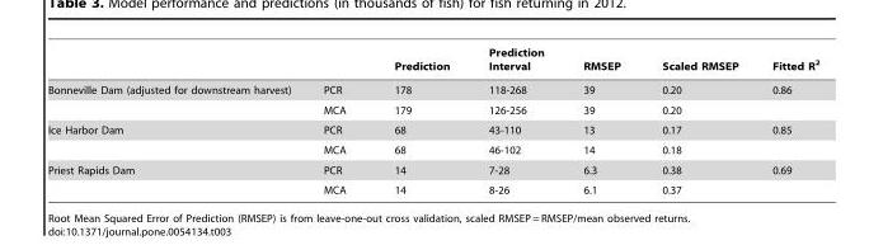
<table><thead><tr><td></td><td></td><td>Prediction</td><td>Prediction Interval</td><td>RMSEP</td><td>Scaled RMSEP</td><td>Fitted R<sup>2</sup></td></tr></thead><tbody><tr><td rowspan="2">Bonneville Dam (adjusted for downstream harvest)</td><td>PCR</td><td>178</td><td>118-268</td><td>39</td><td>0.20</td><td>0.86</td></tr><tr><td>MCA</td><td>179</td><td>126-256</td><td>39</td><td>0.20</td><td></td></tr><tr><td rowspan="2">Ice Harbor Dam</td><td>PCR</td><td>68</td><td>43-110</td><td>13</td><td>0.17</td><td>0.85</td></tr><tr><td>MCA</td><td>68</td><td>46-102</td><td>14</td><td>0.18</td><td></td></tr><tr><td rowspan="2">Priest Rapids Dam</td><td>PCR</td><td>14</td><td>7-28</td><td>6.3</td><td>0.38</td><td>0.69</td></tr><tr><td>MCA</td><td>14</td><td>8-26</td><td>6.1</td><td>0.37</td><td></td></tr></tbody></table>